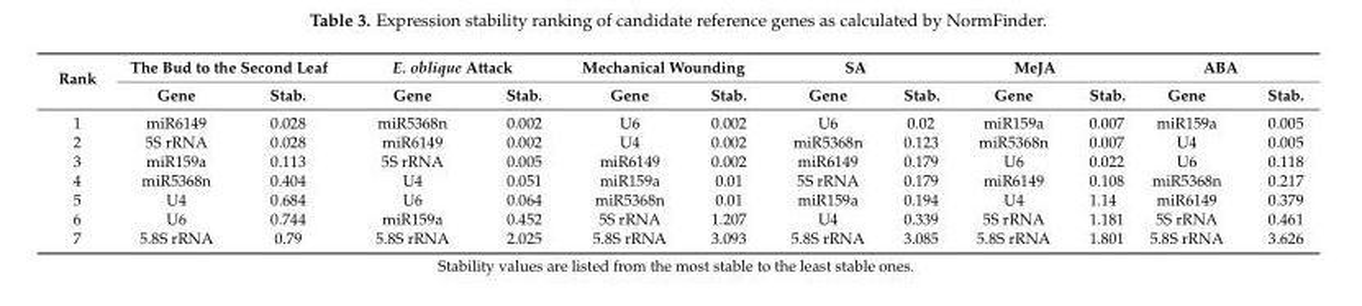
<table><thead><tr><td rowspan="2">Rank</td><td colspan="2">The Bud to the Second Leaf</td><td colspan="2">E. oblique Attack</td><td colspan="2">Mechanical Wounding</td><td colspan="2">SA</td><td colspan="2">MeJA</td><td colspan="2">ABA</td></tr><tr><td>Gene</td><td>Stab.</td><td>Gene</td><td>Stab.</td><td>Gene</td><td>Stab.</td><td>Gene</td><td>Stab.</td><td>Gene</td><td>Stab.</td><td>Gene</td><td>Stab.</td></tr></thead><tbody><tr><td>1</td><td>miR6149</td><td>0.028</td><td>miR5368n</td><td>0.002</td><td>U6</td><td>0.002</td><td>U6</td><td>0.02</td><td>miR159a</td><td>0.007</td><td>miR159a</td><td>0.005</td></tr><tr><td>2</td><td>5S rRNA</td><td>0.028</td><td>miR6149</td><td>0.002</td><td>U4</td><td>0.002</td><td>miR5368n</td><td>0.123</td><td>miR5368n</td><td>0.007</td><td>U4</td><td>0.005</td></tr><tr><td>3</td><td>miR159a</td><td>0.113</td><td>5S rRNA</td><td>0.005</td><td>miR6149</td><td>0.002</td><td>miR6149</td><td>0.179</td><td>U6</td><td>0.022</td><td>U6</td><td>0.118</td></tr><tr><td>4</td><td>miR5368n</td><td>0.404</td><td>U4</td><td>0.051</td><td>miR159a</td><td>0.01</td><td>5S rRNA</td><td>0.179</td><td>miR6149</td><td>0.108</td><td>miR5368n</td><td>0.217</td></tr><tr><td>5</td><td>U4</td><td>0.684</td><td>U6</td><td>0.064</td><td>miR5368n</td><td>0.01</td><td>miR159a</td><td>0.194</td><td>U4</td><td>1.14</td><td>miR6149</td><td>0.379</td></tr><tr><td>6</td><td>U6</td><td>0.744</td><td>miR159a</td><td>0.452</td><td>5S rRNA</td><td>1.207</td><td>U4</td><td>0.339</td><td>5S rRNA</td><td>1.181</td><td>5S rRNA</td><td>0.461</td></tr><tr><td>7</td><td>5.8S rRNA</td><td>0.79</td><td>5.8S rRNA</td><td>2.025</td><td>5.8S rRNA</td><td>3.093</td><td>5.8S rRNA</td><td>3.085</td><td>5.8S rRNA</td><td>1.801</td><td>5.8S rRNA</td><td>3.626</td></tr></tbody></table>